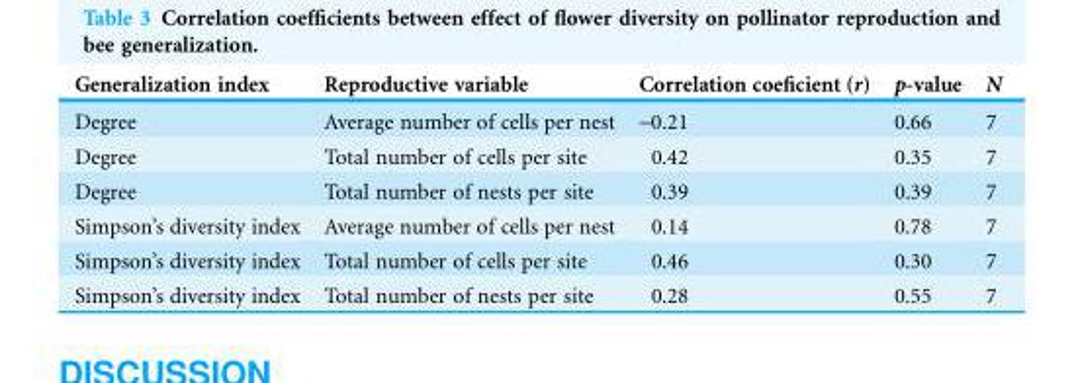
<table><thead><tr><td>Generalization index</td><td>Reproductive variable</td><td>Correlation coeficient (r)</td><td>p-value</td><td>N</td></tr></thead><tbody><tr><td>Degree</td><td>Average number of cells per nest</td><td>-0.21</td><td>0.66</td><td>7</td></tr><tr><td>Degree</td><td>Total number of cells per site</td><td>0.42</td><td>0.35</td><td>7</td></tr><tr><td>Degree</td><td>Total number of nests per site</td><td>0.39</td><td>0.39</td><td>7</td></tr><tr><td>Simpson’s diversity index</td><td>Average number of cells per nest</td><td>0.14</td><td>0.78</td><td>7</td></tr><tr><td>Simpson’s diversity index</td><td>Total number of cells per site</td><td>0.46</td><td>0.30</td><td>7</td></tr><tr><td>Simpson’s diversity index</td><td>Total number of nests per site</td><td>0.28</td><td>0.55</td><td>7</td></tr></tbody></table>